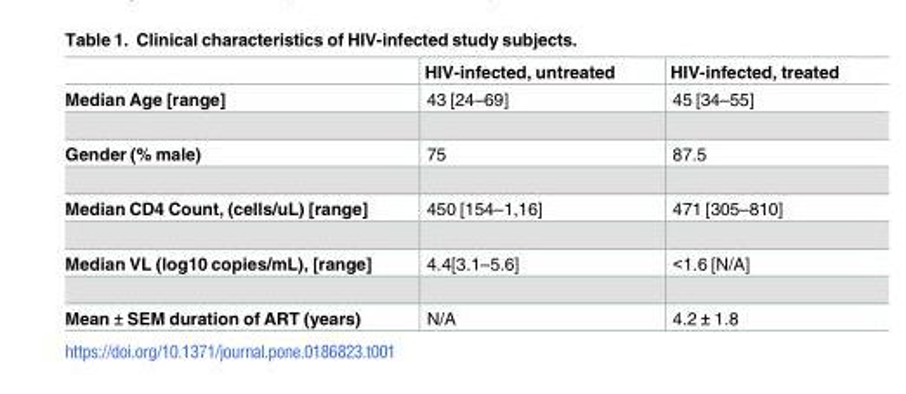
<table><thead><tr><td></td><td>HIV-infected, untreated</td><td>HIV-infected, treated</td></tr></thead><tbody><tr><td>Median Age [range]</td><td>43 [24–69]</td><td>45 [34–55]</td></tr><tr><td>Gender (% male)</td><td>75</td><td>87.5</td></tr><tr><td>Median CD4 Count, (cells/uL) [range]</td><td>450 [154–1,16]</td><td>471 [305–810]</td></tr><tr><td>Median VL (log10 copies/mL), [range]</td><td>4.4[3.1–5.6]</td><td>&lt;1.6 [N/A]</td></tr><tr><td>Mean ± SEM duration of ART (years)</td><td>N/A</td><td>4.2 ± 1.8</td></tr></tbody></table>